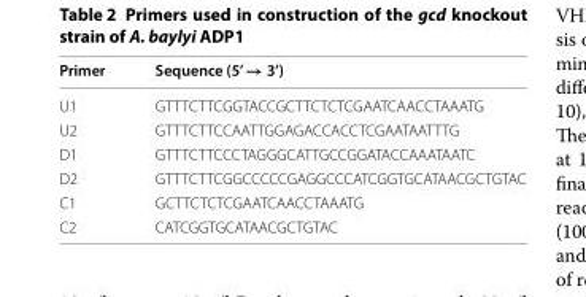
<table><thead><tr><td>Primer</td><td>Sequence (5’ → 3’)</td></tr></thead><tbody><tr><td>U1</td><td>GTTTCTTCGGTACCGCTTCTCTCGAATCAACCTAAATG</td></tr><tr><td>U2</td><td>GTTTCTTCCAATTGGAGACCACCTCGAATAATTTG</td></tr><tr><td>D1</td><td>GTTTCTTCCCTAGGGCATTGCCGGATACCAAATAATC</td></tr><tr><td>D2</td><td>GTTTCTTCGGCCCCCGAGGCCCATCGGTGCATAACGCTGTAC</td></tr><tr><td>C1</td><td>GCTTCTCTCGAATCAACCTAAATG</td></tr><tr><td>C2</td><td>CATCGGTGCATAACGCTGTAC</td></tr></tbody></table>